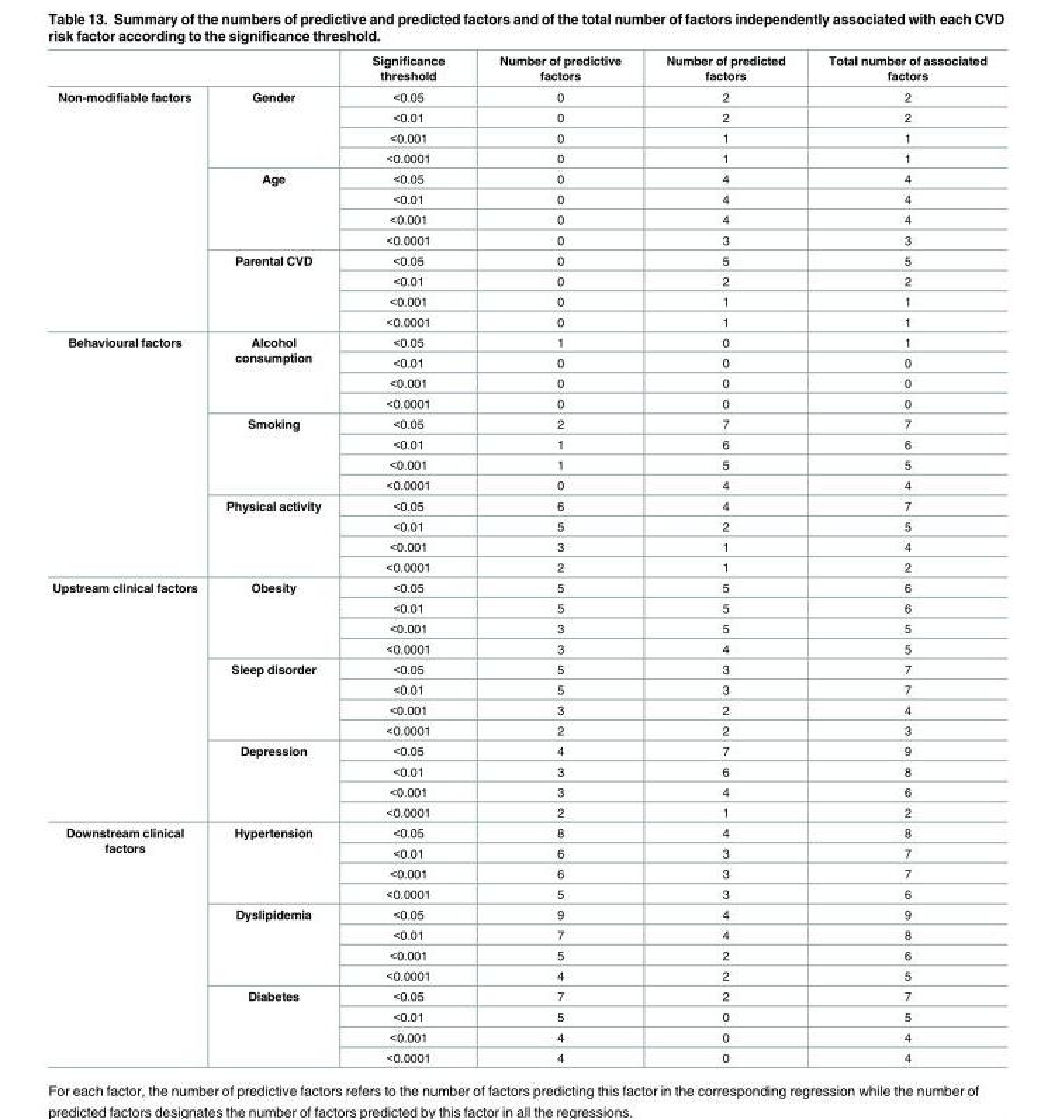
<table><thead><tr><td></td><td></td><td>Significance threshold</td><td>Number of predictive factors</td><td>Number of predicted factors</td><td>Total number of associated factors</td></tr></thead><tbody><tr><td rowspan="12">Non-modifiable factors</td><td rowspan="4">Gender</td><td>&lt;0.05</td><td>0</td><td>2</td><td>2</td></tr><tr><td>&lt;0.01</td><td>0</td><td>2</td><td>2</td></tr><tr><td>&lt;0.001</td><td>0</td><td>1</td><td>1</td></tr><tr><td>&lt;0.0001</td><td>0</td><td>1</td><td>1</td></tr><tr><td rowspan="4">Age</td><td>&lt;0.05</td><td>0</td><td>4</td><td>4</td></tr><tr><td>&lt;0.01</td><td>0</td><td>4</td><td>4</td></tr><tr><td>&lt;0.001</td><td>0</td><td>4</td><td>4</td></tr><tr><td>&lt;0.0001</td><td>0</td><td>3</td><td>3</td></tr><tr><td rowspan="4">Parental CVD</td><td>&lt;0.05</td><td>0</td><td>5</td><td>5</td></tr><tr><td>&lt;0.01</td><td>0</td><td>2</td><td>2</td></tr><tr><td>&lt;0.001</td><td>0</td><td>1</td><td>1</td></tr><tr><td>&lt;0.0001</td><td>0</td><td>1</td><td>1</td></tr><tr><td rowspan="12">Behavioural factors</td><td rowspan="4">Alcohol consumption</td><td>&lt;0.05</td><td>1</td><td>0</td><td>1</td></tr><tr><td>&lt;0.01</td><td>0</td><td>0</td><td>0</td></tr><tr><td>&lt;0.001</td><td>0</td><td>0</td><td>0</td></tr><tr><td>&lt;0.0001</td><td>0</td><td>0</td><td>0</td></tr><tr><td rowspan="4">Smoking</td><td>&lt;0.05</td><td>2</td><td>7</td><td>7</td></tr><tr><td>&lt;0.01</td><td>1</td><td>6</td><td>6</td></tr><tr><td>&lt;0.001</td><td>1</td><td>5</td><td>5</td></tr><tr><td>&lt;0.0001</td><td>0</td><td>4</td><td>4</td></tr><tr><td rowspan="4">Physical activity</td><td>&lt;0.05</td><td>6</td><td>4</td><td>7</td></tr><tr><td>&lt;0.01</td><td>5</td><td>2</td><td>5</td></tr><tr><td>&lt;0.001</td><td>3</td><td>1</td><td>4</td></tr><tr><td>&lt;0.0001</td><td>2</td><td>1</td><td>2</td></tr><tr><td rowspan="12">Upstream clinical factors</td><td rowspan="4">Obesity</td><td>&lt;0.05</td><td>5</td><td>5</td><td>6</td></tr><tr><td>&lt;0.01</td><td>5</td><td>5</td><td>6</td></tr><tr><td>&lt;0.001</td><td>3</td><td>5</td><td>5</td></tr><tr><td>&lt;0.0001</td><td>3</td><td>4</td><td>5</td></tr><tr><td rowspan="4">Sleep disorder</td><td>&lt;0.05</td><td>5</td><td>3</td><td>7</td></tr><tr><td>&lt;0.01</td><td>5</td><td>3</td><td>7</td></tr><tr><td>&lt;0.001</td><td>3</td><td>2</td><td>4</td></tr><tr><td>&lt;0.0001</td><td>2</td><td>2</td><td>3</td></tr><tr><td rowspan="4">Depression</td><td>&lt;0.05</td><td>4</td><td>7</td><td>9</td></tr><tr><td>&lt;0.01</td><td>3</td><td>6</td><td>8</td></tr><tr><td>&lt;0.001</td><td>3</td><td>4</td><td>6</td></tr><tr><td>&lt;0.0001</td><td>2</td><td>1</td><td>2</td></tr><tr><td rowspan="12">Downstream clinical factors</td><td rowspan="4">Hypertension</td><td>&lt;0.05</td><td>8</td><td>4</td><td>8</td></tr><tr><td>&lt;0.01</td><td>6</td><td>3</td><td>7</td></tr><tr><td>&lt;0.001</td><td>6</td><td>3</td><td>7</td></tr><tr><td>&lt;0.0001</td><td>5</td><td>3</td><td>6</td></tr><tr><td rowspan="4">Dyslipidemia</td><td>&lt;0.05</td><td>9</td><td>4</td><td>9</td></tr><tr><td>&lt;0.01</td><td>7</td><td>4</td><td>8</td></tr><tr><td>&lt;0.001</td><td>5</td><td>2</td><td>6</td></tr><tr><td>&lt;0.0001</td><td>4</td><td>2</td><td>5</td></tr><tr><td rowspan="4">Diabetes</td><td>&lt;0.05</td><td>7</td><td>2</td><td>7</td></tr><tr><td>&lt;0.01</td><td>5</td><td>0</td><td>5</td></tr><tr><td>&lt;0.001</td><td>4</td><td>0</td><td>4</td></tr><tr><td>&lt;0.0001</td><td>4</td><td>0</td><td>4</td></tr></tbody></table>